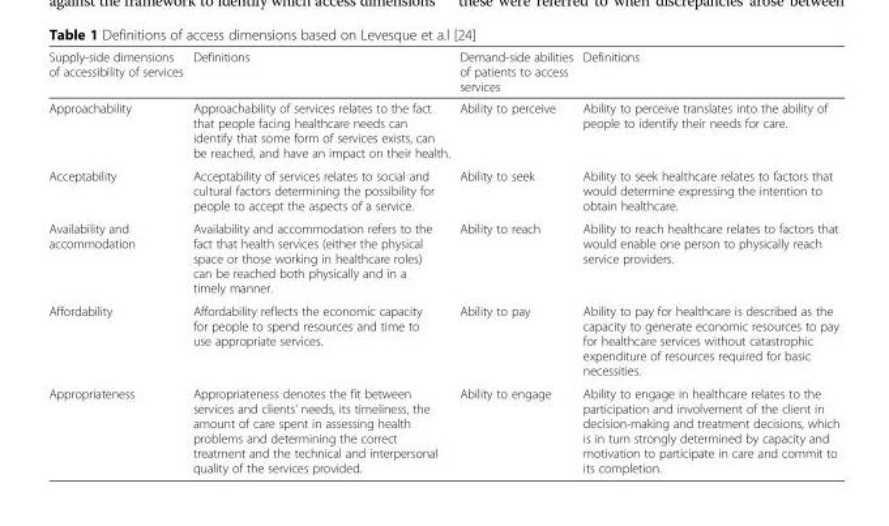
<table><thead><tr><td>Supply-side dimensions of accessibility of services</td><td>Definitions</td><td>Demand-side abilities of patients to access services</td><td>Definitions</td></tr></thead><tbody><tr><td>Approachability</td><td>Approachability of services relates to the fact that people facing healthcare needs can identify that some form of services exists, can be reached, and have an impact on their health.</td><td>Ability to perceive</td><td>Ability to perceive translates into the ability of people to identify their needs for care.</td></tr><tr><td>Acceptability</td><td>Acceptability of services relates to social and cultural factors determining the possibility for people to accept the aspects of a service.</td><td>Ability to seek</td><td>Ability to seek healthcare relates to factors that would determine expressing the intention to obtain healthcare.</td></tr><tr><td>Availability and accommodation</td><td>Availability and accommodation refers to the fact that health services (either the physical space or those working in healthcare roles) can be reached both physically and in a timely manner.</td><td>Ability to reach</td><td>Ability to reach healthcare relates to factors that would enable one person to physically reach service providers.</td></tr><tr><td>Affordability</td><td>Affordability reflects the economic capacity for people to spend resources and time to use appropriate services.</td><td>Ability to pay</td><td>Ability to pay for healthcare is described as the capacity to generate economic resources to pay for healthcare services without catastrophic expenditure of resources required for basic necessities.</td></tr><tr><td>Appropriateness</td><td>Appropriateness denotes the fit between services and clients&#x27; needs, its timeliness, the amount of care spent in assessing health problems and determining the correct treatment and the technical and interpersonal quality of the services provided.</td><td>Ability to engage</td><td>Ability to engage in healthcare relates to the participation and involvement of the client in decision-making and treatment decisions, which is in turn strongly determined by capacity and motivation to participate in care and commit to its completion.</td></tr></tbody></table>